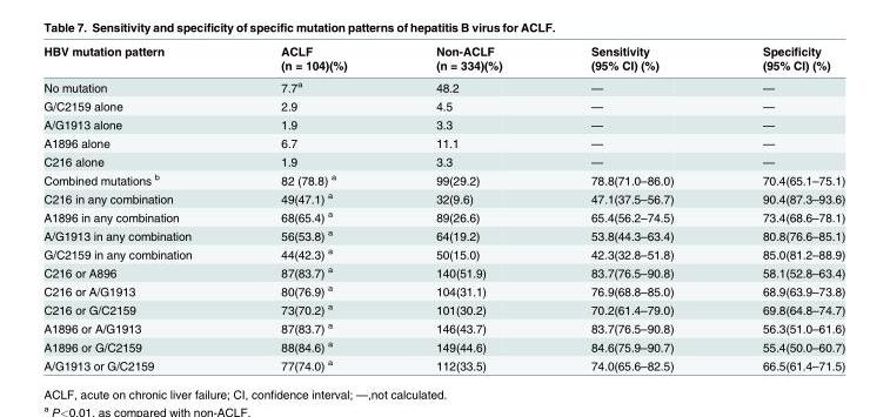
<table><thead><tr><td rowspan="2">HBV mutation pattern</td><td rowspan="2">ACLF (n = 104)(%)</td><td rowspan="2">Non-ACLF (n = 334)(%)</td><td rowspan="2">Sensitivity (95% CI) (%)</td><td rowspan="2">Specificity (95% CI) (%)</td></tr><tr></tr></thead><tbody><tr><td>No mutation</td><td>7.7<sup>a</sup></td><td>48.2</td><td>—</td><td>—</td></tr><tr><td>G/C2159 alone</td><td>2.9</td><td>4.5</td><td>—</td><td>—</td></tr><tr><td>A/G1913 alone</td><td>1.9</td><td>3.3</td><td>—</td><td>—</td></tr><tr><td>A1896 alone</td><td>6.7</td><td>11.1</td><td>—</td><td>—</td></tr><tr><td>C216 alone</td><td>1.9</td><td>3.3</td><td>—</td><td>—</td></tr><tr><td>Combined mutations <sup>b</sup></td><td>82 (78.8) <sup>a</sup></td><td>99(29.2)</td><td>78.8(71.0–86.0)</td><td>70.4(65.1–75.1)</td></tr><tr><td>C216 in any combination</td><td>49(47.1) <sup>a</sup></td><td>32(9.6)</td><td>47.1(37.5–56.7)</td><td>90.4(87.3–93.6)</td></tr><tr><td>A1896 in any combination</td><td>68(65.4) <sup>a</sup></td><td>89(26.6)</td><td>65.4(56.2–74.5)</td><td>73.4(68.6–78.1)</td></tr><tr><td>A/G1913 in any combination</td><td>56(53.8) <sup>a</sup></td><td>64(19.2)</td><td>53.8(44.3–63.4)</td><td>80.8(76.6–85.1)</td></tr><tr><td>G/C2159 in any combination</td><td>44(42.3) <sup>a</sup></td><td>50(15.0)</td><td>42.3(32.8–51.8)</td><td>85.0(81.2–88.9)</td></tr><tr><td>C216 or A896</td><td>87(83.7) <sup>a</sup></td><td>140(51.9)</td><td>83.7(76.5–90.8)</td><td>58.1(52.8–63.4)</td></tr><tr><td>C216 or A/G1913</td><td>80(76.9) <sup>a</sup></td><td>104(31.1)</td><td>76.9(68.8–85.0)</td><td>68.9(63.9–73.8)</td></tr><tr><td>C216 or G/C2159</td><td>73(70.2) <sup>a</sup></td><td>101(30.2)</td><td>70.2(61.4–79.0)</td><td>69.8(64.8–74.7)</td></tr><tr><td>A1896 or A/G1913</td><td>87(83.7) <sup>a</sup></td><td>146(43.7)</td><td>83.7(76.5–90.8)</td><td>56.3(51.0–61.6)</td></tr><tr><td>A1896 or G/C2159</td><td>88(84.6) <sup>a</sup></td><td>149(44.6)</td><td>84.6(75.9–90.7)</td><td>55.4(50.0–60.7)</td></tr><tr><td>A/G1913 or G/C2159</td><td>77(74.0) <sup>a</sup></td><td>112(33.5)</td><td>74.0(65.6–82.5)</td><td>66.5(61.4–71.5)</td></tr></tbody></table>